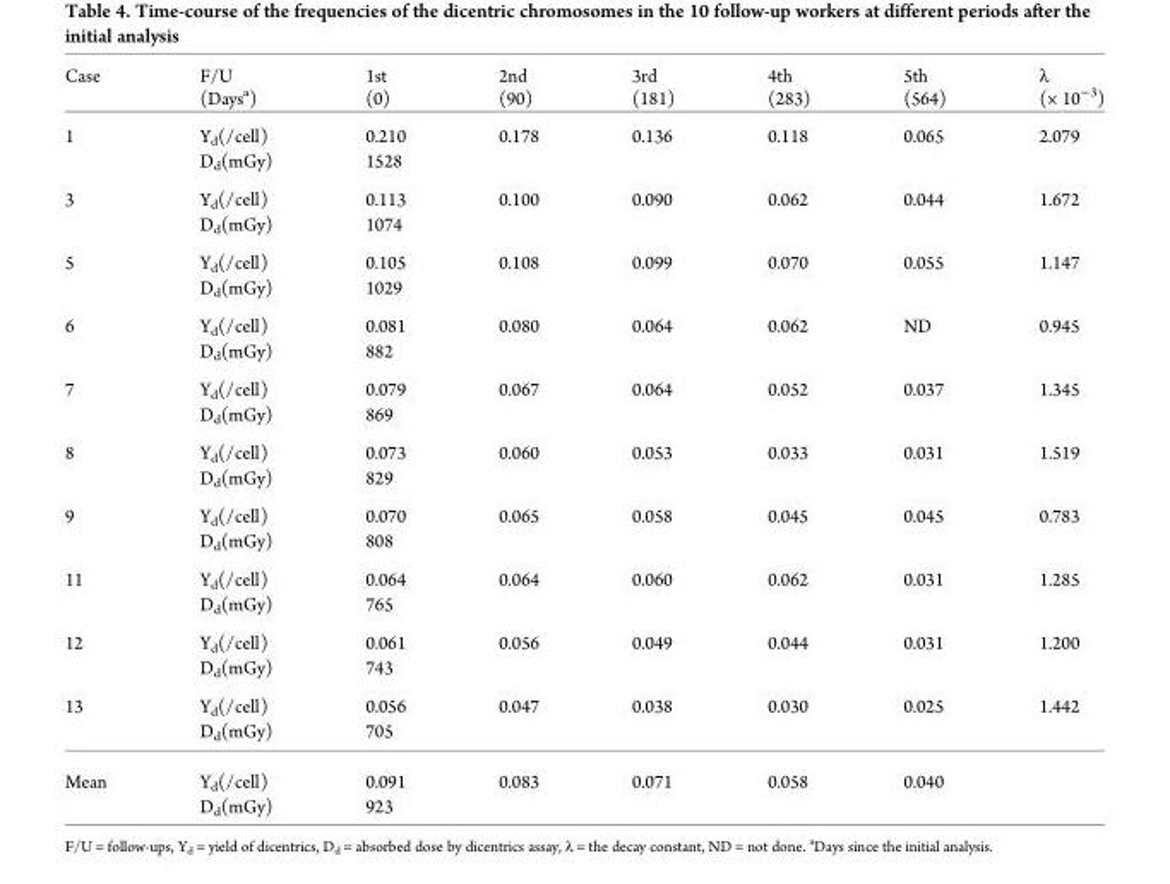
<table><thead><tr><td>Case</td><td>F/U (Days<sup>a</sup>)</td><td>1st (0)</td><td>2nd (90)</td><td>3rd (181)</td><td>4th (283)</td><td>5th (564)</td><td>λ (× 10<sup>−3</sup>)</td></tr></thead><tbody><tr><td>1</td><td>Y<sub>d</sub>(/cell) D<sub>d</sub>(mGy)</td><td>0.210 1528</td><td>0.178</td><td>0.136</td><td>0.118</td><td>0.065</td><td>2.079</td></tr><tr><td>3</td><td>Y<sub>d</sub>(/cell) D<sub>d</sub>(mGy)</td><td>0.113 1074</td><td>0.100</td><td>0.090</td><td>0.062</td><td>0.044</td><td>1.672</td></tr><tr><td>5</td><td>Y<sub>d</sub>(/cell) D<sub>d</sub>(mGy)</td><td>0.105 1029</td><td>0.108</td><td>0.099</td><td>0.070</td><td>0.055</td><td>1.147</td></tr><tr><td>6</td><td>Y<sub>d</sub>(/cell) D<sub>d</sub>(mGy)</td><td>0.081 882</td><td>0.080</td><td>0.064</td><td>0.062</td><td>ND</td><td>0.945</td></tr><tr><td>7</td><td>Y<sub>d</sub>(/cell) D<sub>d</sub>(mGy)</td><td>0.079 869</td><td>0.067</td><td>0.064</td><td>0.052</td><td>0.037</td><td>1.345</td></tr><tr><td>8</td><td>Y<sub>d</sub>(/cell) D<sub>d</sub>(mGy)</td><td>0.073 829</td><td>0.060</td><td>0.053</td><td>0.033</td><td>0.031</td><td>1.519</td></tr><tr><td>9</td><td>Y<sub>d</sub>(/cell) D<sub>d</sub>(mGy)</td><td>0.070 808</td><td>0.065</td><td>0.058</td><td>0.045</td><td>0.045</td><td>0.783</td></tr><tr><td>11</td><td>Y<sub>d</sub>(/cell) D<sub>d</sub>(mGy)</td><td>0.064 765</td><td>0.064</td><td>0.060</td><td>0.062</td><td>0.031</td><td>1.285</td></tr><tr><td>12</td><td>Y<sub>d</sub>(/cell) D<sub>d</sub>(mGy)</td><td>0.061 743</td><td>0.056</td><td>0.049</td><td>0.044</td><td>0.031</td><td>1.200</td></tr><tr><td>13</td><td>Y<sub>d</sub>(/cell) D<sub>d</sub>(mGy)</td><td>0.056 705</td><td>0.047</td><td>0.038</td><td>0.030</td><td>0.025</td><td>1.442</td></tr><tr><td>Mean</td><td>Y<sub>d</sub>(/cell) D<sub>d</sub>(mGy)</td><td>0.091 923</td><td>0.083</td><td>0.071</td><td>0.058</td><td>0.040</td><td></td></tr></tbody></table>